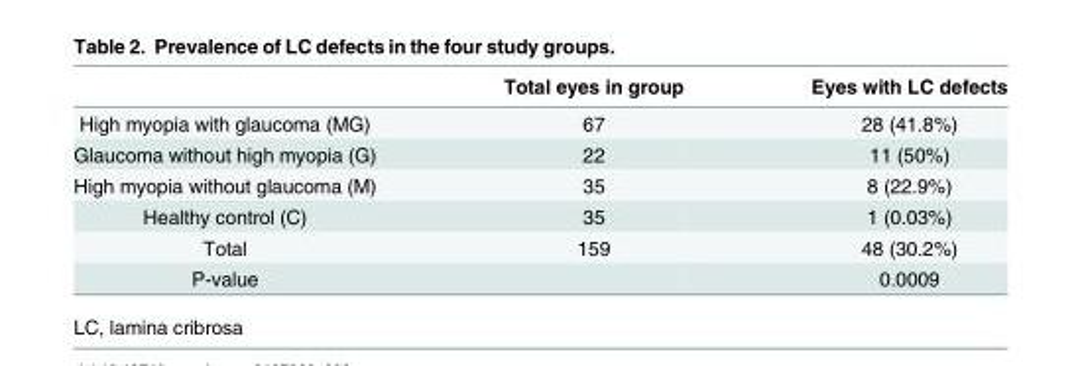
<table><thead><tr><td></td><td>Total eyes in group</td><td>Eyes with LC defects</td></tr></thead><tbody><tr><td>High myopia with glaucoma (MG)</td><td>67</td><td>28 (41.8%)</td></tr><tr><td>Glaucoma without high myopia (G)</td><td>22</td><td>11 (50%)</td></tr><tr><td>High myopia without glaucoma (M)</td><td>35</td><td>8 (22.9%)</td></tr><tr><td>Healthy control (C)</td><td>35</td><td>1 (0.03%)</td></tr><tr><td>Total</td><td>159</td><td>48 (30.2%)</td></tr><tr><td>P-value</td><td></td><td>0.0009</td></tr></tbody></table>